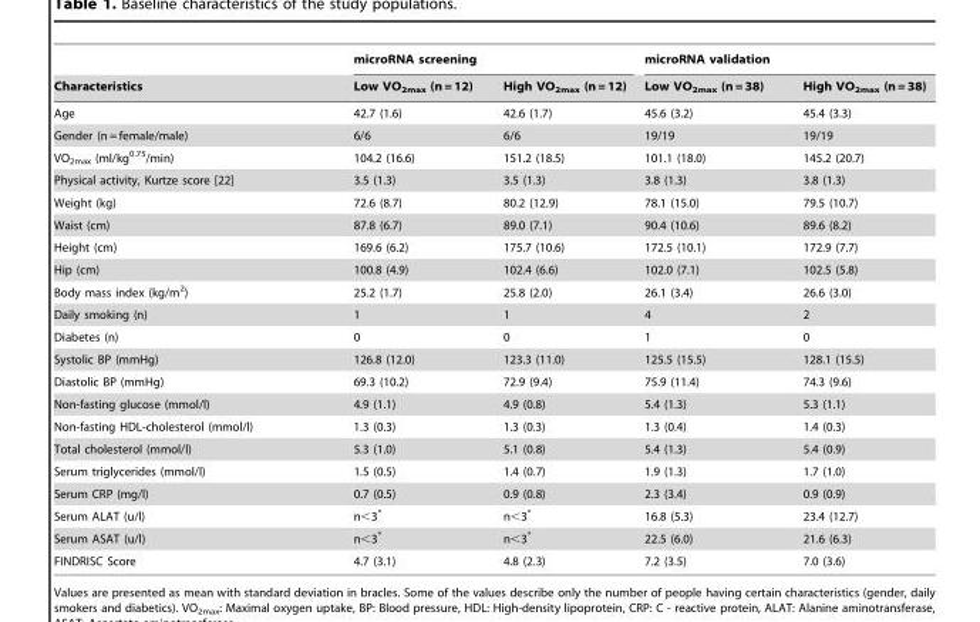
<table><thead><tr><td rowspan="2">Characteristics</td><td colspan="2">microRNA screening</td><td colspan="2">microRNA validation</td></tr><tr><td>Low VO<sub>2max</sub> (n = 12)</td><td>High VO<sub>2max</sub> (n = 12)</td><td>Low VO<sub>2max</sub> (n = 38)</td><td>High VO<sub>2max</sub> (n = 38)</td></tr></thead><tbody><tr><td>Age</td><td>42.7 (1.6)</td><td>42.6 (1.7)</td><td>45.6 (3.2)</td><td>45.4 (3.3)</td></tr><tr><td>Gender (n = female/male)</td><td>6/6</td><td>6/6</td><td>19/19</td><td>19/19</td></tr><tr><td>VO<sub>2max</sub> (ml/kg<sup>0.75</sup>/min)</td><td>104.2 (16.6)</td><td>151.2 (18.5)</td><td>101.1 (18.0)</td><td>145.2 (20.7)</td></tr><tr><td>Physical activity, Kurtze score [22]</td><td>3.5 (1.3)</td><td>3.5 (1.3)</td><td>3.8 (1.3)</td><td>3.8 (1.3)</td></tr><tr><td>Weight (kg)</td><td>72.6 (8.7)</td><td>80.2 (12.9)</td><td>78.1 (15.0)</td><td>79.5 (10.7)</td></tr><tr><td>Waist (cm)</td><td>87.8 (6.7)</td><td>89.0 (7.1)</td><td>90.4 (10.6)</td><td>89.6 (8.2)</td></tr><tr><td>Height (cm)</td><td>169.6 (6.2)</td><td>175.7 (10.6)</td><td>172.5 (10.1)</td><td>172.9 (7.7)</td></tr><tr><td>Hip (cm)</td><td>100.8 (4.9)</td><td>102.4 (6.6)</td><td>102.0 (7.1)</td><td>102.5 (5.8)</td></tr><tr><td>Body mass index (kg/m<sup>2</sup>)</td><td>25.2 (1.7)</td><td>25.8 (2.0)</td><td>26.1 (3.4)</td><td>26.6 (3.0)</td></tr><tr><td>Daily smoking (n)</td><td>1</td><td>1</td><td>4</td><td>2</td></tr><tr><td>Diabetes (n)</td><td>0</td><td>0</td><td>1</td><td>0</td></tr><tr><td>Systolic BP (mmHg)</td><td>126.8 (12.0)</td><td>123.3 (11.0)</td><td>125.5 (15.5)</td><td>128.1 (15.5)</td></tr><tr><td>Diastolic BP (mmHg)</td><td>69.3 (10.2)</td><td>72.9 (9.4)</td><td>75.9 (11.4)</td><td>74.3 (9.6)</td></tr><tr><td>Non-fasting glucose (mmol/l)</td><td>4.9 (1.1)</td><td>4.9 (0.8)</td><td>5.4 (1.3)</td><td>5.3 (1.1)</td></tr><tr><td>Non-fasting HDL-cholesterol (mmol/l)</td><td>1.3 (0.3)</td><td>1.3 (0.3)</td><td>1.3 (0.4)</td><td>1.4 (0.3)</td></tr><tr><td>Total cholesterol (mmol/l)</td><td>5.3 (1.0)</td><td>5.1 (0.8)</td><td>5.4 (1.3)</td><td>5.4 (0.9)</td></tr><tr><td>Serum triglycerides (mmol/l)</td><td>1.5 (0.5)</td><td>1.4 (0.7)</td><td>1.9 (1.3)</td><td>1.7 (1.0)</td></tr><tr><td>Serum CRP (mg/l)</td><td>0.7 (0.5)</td><td>0.9 (0.8)</td><td>2.3 (3.4)</td><td>0.9 (0.9)</td></tr><tr><td>Serum ALAT (u/l)</td><td>n&lt;3*</td><td>n&lt;3*</td><td>16.8 (5.3)</td><td>23.4 (12.7)</td></tr><tr><td>Serum ASAT (u/l)</td><td>n&lt;3*</td><td>n&lt;3*</td><td>22.5 (6.0)</td><td>21.6 (6.3)</td></tr><tr><td>FINDRISC Score</td><td>4.7 (3.1)</td><td>4.8 (2.3)</td><td>7.2 (3.5)</td><td>7.0 (3.6)</td></tr></tbody></table>